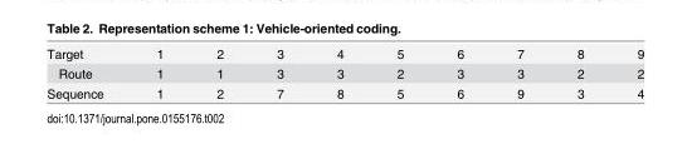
<table><tbody><tr><td>Target</td><td>1</td><td>2</td><td>3</td><td>4</td><td>5</td><td>6</td><td>7</td><td>8</td><td>9</td></tr><tr><td>Route</td><td>1</td><td>1</td><td>3</td><td>3</td><td>2</td><td>3</td><td>3</td><td>2</td><td>2</td></tr><tr><td>Sequence</td><td>1</td><td>2</td><td>7</td><td>8</td><td>5</td><td>6</td><td>9</td><td>3</td><td>4</td></tr></tbody></table>